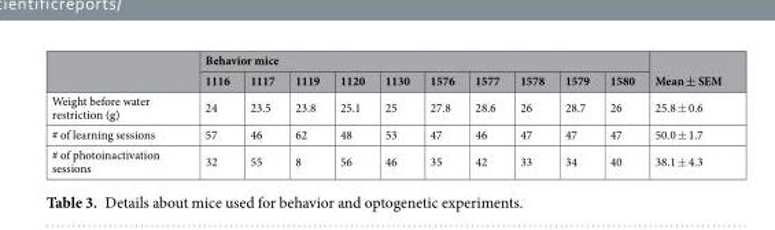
<table><thead><tr><td rowspan="2"></td><td colspan="10">Behavior mice</td><td rowspan="2">Mean ± SEM</td></tr><tr><td>1116</td><td>1117</td><td>1119</td><td>1120</td><td>1130</td><td>1576</td><td>1577</td><td>1578</td><td>1579</td><td>1580</td></tr></thead><tbody><tr><td>Weight before water restriction (g)</td><td>24</td><td>23.5</td><td>23.8</td><td>25.1</td><td>25</td><td>27.8</td><td>28.6</td><td>26</td><td>28.7</td><td>26</td><td>25.8 ± 0.6</td></tr><tr><td># of learning sessions</td><td>57</td><td>46</td><td>62</td><td>48</td><td>53</td><td>47</td><td>46</td><td>47</td><td>47</td><td>47</td><td>50.0 ± 1.7</td></tr><tr><td># of photoinactivation sessions</td><td>32</td><td>55</td><td>8</td><td>56</td><td>46</td><td>35</td><td>42</td><td>33</td><td>34</td><td>40</td><td>38.1 ± 4.3</td></tr></tbody></table>